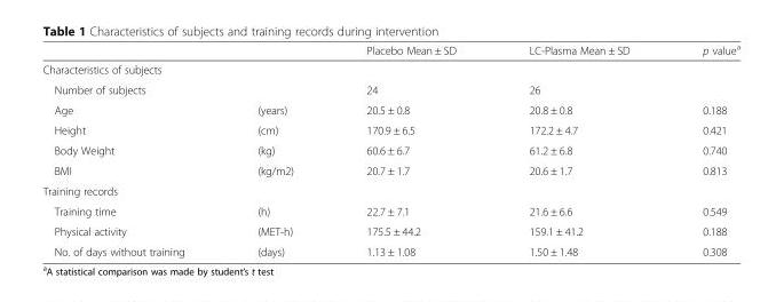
<table><thead><tr><td></td><td></td><td>Placebo Mean ± SD</td><td>LC-Plasma Mean ± SD</td><td>p value<sup>a</sup></td></tr></thead><tbody><tr><td colspan="5">Characteristics of subjects</td></tr><tr><td>Number of subjects</td><td></td><td>24</td><td>26</td><td></td></tr><tr><td>Age</td><td>(years)</td><td>20.5 ± 0.8</td><td>20.8 ± 0.8</td><td>0.188</td></tr><tr><td>Height</td><td>(cm)</td><td>170.9 ± 6.5</td><td>172.2 ± 4.7</td><td>0.421</td></tr><tr><td>Body Weight</td><td>(kg)</td><td>60.6 ± 6.7</td><td>61.2 ± 6.8</td><td>0.740</td></tr><tr><td>BMI</td><td>(kg/m2)</td><td>20.7 ± 1.7</td><td>20.6 ± 1.7</td><td>0.813</td></tr><tr><td colspan="5">Training records</td></tr><tr><td>Training time</td><td>(h)</td><td>22.7 ± 7.1</td><td>21.6 ± 6.6</td><td>0.549</td></tr><tr><td>Physical activity</td><td>(MET-h)</td><td>175.5 ± 44.2</td><td>159.1 ± 41.2</td><td>0.188</td></tr><tr><td>No. of days without training</td><td>(days)</td><td>1.13 ± 1.08</td><td>1.50 ± 1.48</td><td>0.308</td></tr></tbody></table>